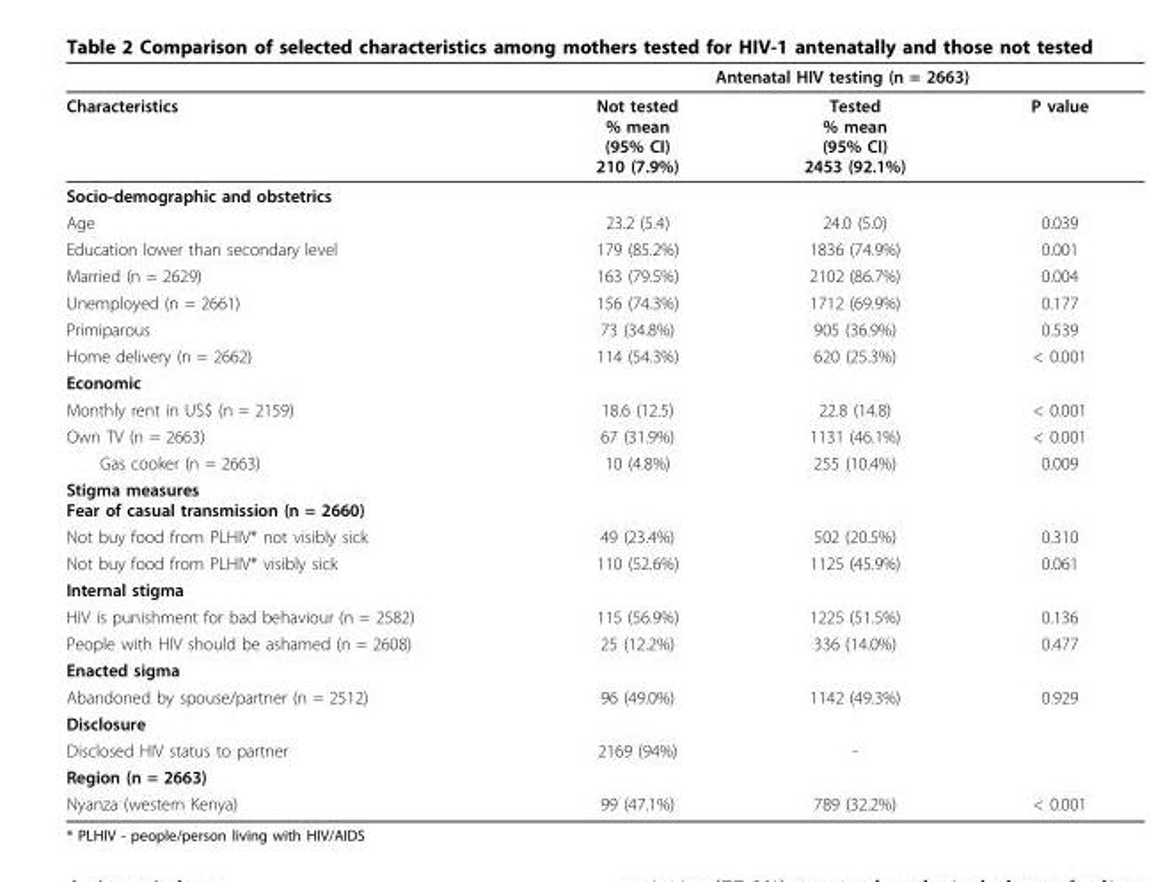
<table><thead><tr><td rowspan="2">Characteristics</td><td colspan="3">Antenatal HIV testing (n = 2663)</td></tr><tr><td>Not tested % mean (95% CI) 210 (7.9%)</td><td>Tested % mean (95% CI) 2453 (92.1%)</td><td>P value</td></tr></thead><tbody><tr><td colspan="4">Socio-demographic and obstetrics</td></tr><tr><td>Age</td><td>23.2 (5.4)</td><td>24.0 (5.0)</td><td>0.039</td></tr><tr><td>Education lower than secondary level</td><td>179 (85.2%)</td><td>1836 (74.9%)</td><td>0.001</td></tr><tr><td>Married (n = 2629)</td><td>163 (79.5%)</td><td>2102 (86.7%)</td><td>0.004</td></tr><tr><td>Unemployed (n = 2661)</td><td>156 (74.3%)</td><td>1712 (69.9%)</td><td>0.177</td></tr><tr><td>Primiparous</td><td>73 (34.8%)</td><td>905 (36.9%)</td><td>0.539</td></tr><tr><td>Home delivery (n = 2662)</td><td>114 (54.3%)</td><td>620 (25.3%)</td><td>&lt; 0.001</td></tr><tr><td colspan="4">Economic</td></tr><tr><td>Monthly rent in US$ (n = 2159)</td><td>18.6 (12.5)</td><td>22.8 (14.8)</td><td>&lt; 0.001</td></tr><tr><td>Own TV (n = 2663)</td><td>67 (31.9%)</td><td>1131 (46.1%)</td><td>&lt; 0.001</td></tr><tr><td>Gas cooker (n = 2663)</td><td>10 (4.8%)</td><td>255 (10.4%)</td><td>0.009</td></tr><tr><td colspan="4">Stigma measures Fear of casual transmission (n = 2660)</td></tr><tr><td>Not buy food from PLHIV* not visibly sick</td><td>49 (23.4%)</td><td>502 (20.5%)</td><td>0.310</td></tr><tr><td>Not buy food from PLHIV* visibly sick</td><td>110 (52.6%)</td><td>1125 (45.9%)</td><td>0.061</td></tr><tr><td colspan="4">Internal stigma</td></tr><tr><td>HIV is punishment for bad behaviour (n = 2582)</td><td>115 (56.9%)</td><td>1225 (51.5%)</td><td>0.136</td></tr><tr><td>People with HIV should be ashamed (n = 2608)</td><td>25 (12.2%)</td><td>336 (14.0%)</td><td>0.477</td></tr><tr><td colspan="4">Enacted sigma</td></tr><tr><td>Abandoned by spouse/partner (n = 2512)</td><td>96 (49.0%)</td><td>1142 (49.3%)</td><td>0.929</td></tr><tr><td colspan="4">Disclosure</td></tr><tr><td>Disclosed HIV status to partner</td><td>2169 (94%)</td><td>-</td><td></td></tr><tr><td colspan="4">Region (n = 2663)</td></tr><tr><td>Nyanza (western Kenya)</td><td>99 (47.1%)</td><td>789 (32.2%)</td><td>&lt; 0.001</td></tr></tbody></table>